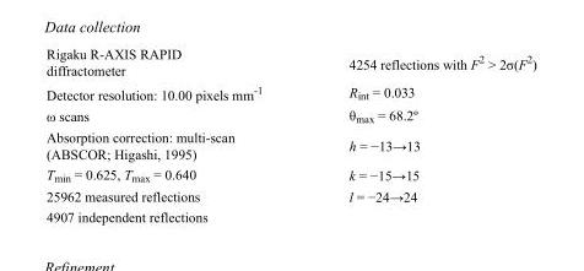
<table><tbody><tr><td>Rigaku R-AXIS RAPID diffractometer</td><td>4254 reflections with F<sup>2</sup> &gt; 2σ(F<sup>2</sup>)</td></tr><tr><td>Detector resolution: 10.00 pixels mm<sup>-1</sup></td><td>R<sub>int</sub> = 0.033</td></tr><tr><td>ω scans</td><td>θmax = 68.2º</td></tr><tr><td>Absorption correction: multi-scan (ABSCOR; Higashi, 1995)</td><td>h = −13→13</td></tr><tr><td>T<sub>min</sub> = 0.625, T<sub>max</sub> = 0.640</td><td>k = −15→15</td></tr><tr><td>25962 measured reflections</td><td>l = −24→24</td></tr><tr><td>4907 independent reflections</td><td></td></tr></tbody></table>